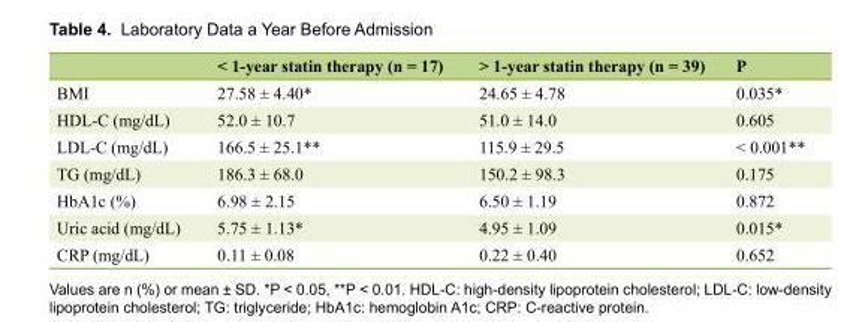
<table><thead><tr><td></td><td>&lt; 1-year statin therapy (n = 17)</td><td>&gt; 1-year statin therapy (n = 39)</td><td>P</td></tr></thead><tbody><tr><td>BMI</td><td>27.58 ± 4.40*</td><td>24.65 ± 4.78</td><td>0.035*</td></tr><tr><td>HDL-C (mg/dL)</td><td>52.0 ± 10.7</td><td>51.0 ± 14.0</td><td>0.605</td></tr><tr><td>LDL-C (mg/dL)</td><td>166.5 ± 25.1**</td><td>115.9 ± 29.5</td><td>&lt; 0.001**</td></tr><tr><td>TG (mg/dL)</td><td>186.3 ± 68.0</td><td>150.2 ± 98.3</td><td>0.175</td></tr><tr><td>HbA1c (%)</td><td>6.98 ± 2.15</td><td>6.50 ± 1.19</td><td>0.872</td></tr><tr><td>Uric acid (mg/dL)</td><td>5.75 ± 1.13*</td><td>4.95 ± 1.09</td><td>0.015*</td></tr><tr><td>CRP (mg/dL)</td><td>0.11 ± 0.08</td><td>0.22 ± 0.40</td><td>0.652</td></tr></tbody></table>